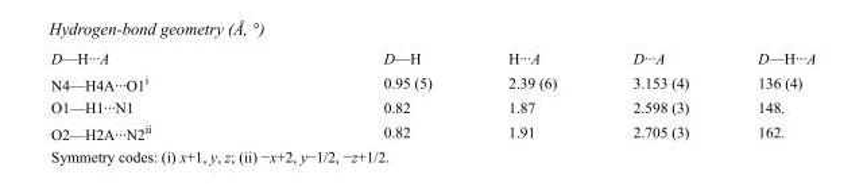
<table><tbody><tr><td>D—H···A</td><td>D—H</td><td>H···A</td><td>D···A</td><td>D—H···A</td></tr><tr><td>N4—H4A···O1<sup>i</sup></td><td>0.95 (5)</td><td>2.39 (6)</td><td>3.153 (4)</td><td>136 (4)</td></tr><tr><td>O1—H1···N1</td><td>0.82</td><td>1.87</td><td>2.598 (3)</td><td>148.</td></tr><tr><td>O2—H2A···N2<sup>ii</sup></td><td>0.82</td><td>1.91</td><td>2.705 (3)</td><td>162.</td></tr></tbody></table>